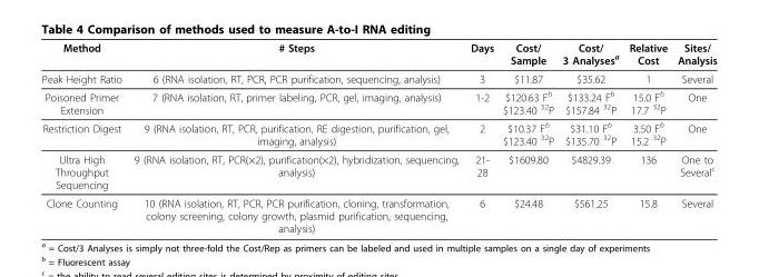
<table><thead><tr><td>Method</td><td># Steps</td><td>Days</td><td>Cost/ Sample</td><td>Cost/ 3 Analyses<sup>a</sup></td><td>Relative Cost</td><td>Sites/ Analysis</td></tr></thead><tbody><tr><td>Peak Height Ratio</td><td>6 (RNA isolation, RT, PCR, PCR purification, sequencing, analysis)</td><td>3</td><td>$11.87</td><td>$35.62</td><td>1</td><td>Several</td></tr><tr><td>Poisoned Primer Extension</td><td>7 (RNA isolation, RT, primer labeling, PCR, gel, imaging, analysis)</td><td>1-2</td><td>$120.63 F<sup>b</sup> $123.40 <sup>32</sup>P</td><td>$133.24 F<sup>b</sup> $157.84 <sup>32</sup>P</td><td>15.0 F<sup>b</sup> 17.7 <sup>32</sup>P</td><td>One</td></tr><tr><td>Restriction Digest</td><td>9 (RNA isolation, RT, PCR, purification, RE digestion, purification, gel, imaging, analysis)</td><td>2</td><td>$10.37 F<sup>b</sup> $123.40 <sup>32</sup>P</td><td>$31.10 F<sup>b</sup> $135.70 <sup>32</sup>P</td><td>3.50 F<sup>b</sup> 15.2 <sup>32</sup>P</td><td>One</td></tr><tr><td>Ultra High Throughput Sequencing</td><td>9 (RNA isolation, RT, PCR(×2), purification(×2), hybridization, sequencing, analysis)</td><td>21- 28</td><td>$1609.80</td><td>$4829.39</td><td>136</td><td>One to Several<sup>c</sup></td></tr><tr><td>Clone Counting</td><td>10 (RNA isolation, RT, PCR, PCR purification, cloning, transformation, colony screening, colony growth, plasmid purification, sequencing, analysis)</td><td>6</td><td>$24.48</td><td>$561.25</td><td>15.8</td><td>Several</td></tr></tbody></table>